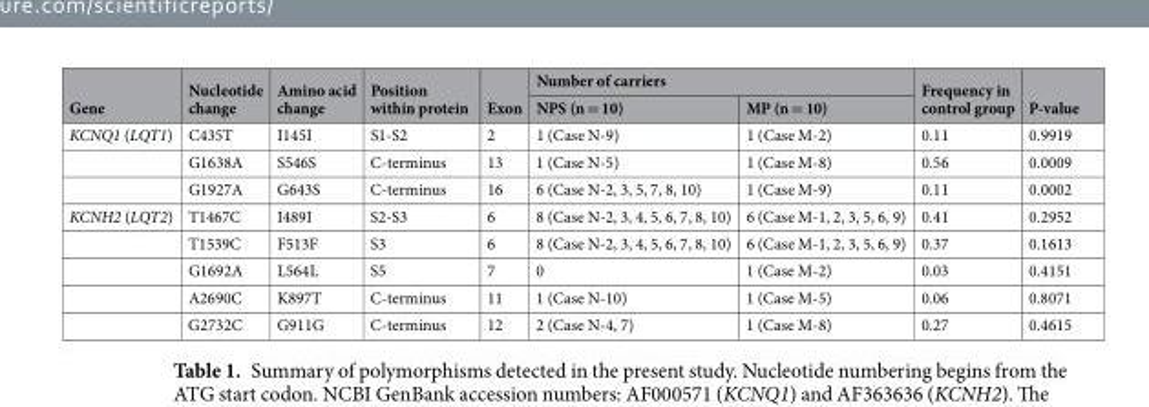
<table><thead><tr><td rowspan="2">Gene</td><td rowspan="2">Nucleotide change</td><td rowspan="2">Amino acid change</td><td rowspan="2">Position within protein</td><td rowspan="2">Exon</td><td colspan="2">Number of carriers</td><td rowspan="2">Frequency in control group</td><td rowspan="2">P-value</td></tr><tr><td>NPS (n = 10)</td><td>MP (n = 10)</td></tr></thead><tbody><tr><td rowspan="3">KCNQ1 (LQT1)</td><td>C435T</td><td>I145I</td><td>S1-S2</td><td>2</td><td>1 (Case N-9)</td><td>1 (Case M-2)</td><td>0.11</td><td>0.9919</td></tr><tr><td>G1638A</td><td>S546S</td><td>C-terminus</td><td>13</td><td>1 (Case N-5)</td><td>1 (Case M-8)</td><td>0.56</td><td>0.0009</td></tr><tr><td>G1927A</td><td>G643S</td><td>C-terminus</td><td>16</td><td>6 (Case N-2, 3, 5, 7, 8, 10)</td><td>1 (Case M-9)</td><td>0.11</td><td>0.0002</td></tr><tr><td rowspan="5">KCNH2 (LQT2)</td><td>T1467C</td><td>I489I</td><td>S2-S3</td><td>6</td><td>8 (Case N-2, 3, 4, 5, 6, 7, 8, 10)</td><td>6 (Case M-1, 2, 3, 5, 6, 9)</td><td>0.41</td><td>0.2952</td></tr><tr><td>T1539C</td><td>F513F</td><td>S3</td><td>6</td><td>8 (Case N-2, 3, 4, 5, 6, 7, 8, 10)</td><td>6 (Case M-1, 2, 3, 5, 6, 9)</td><td>0.37</td><td>0.1613</td></tr><tr><td>G1692A</td><td>L564L</td><td>S5</td><td>7</td><td>0</td><td>1 (Case M-2)</td><td>0.03</td><td>0.4151</td></tr><tr><td>A2690C</td><td>K897T</td><td>C-terminus</td><td>11</td><td>1 (Case N-10)</td><td>1 (Case M-5)</td><td>0.06</td><td>0.8071</td></tr><tr><td>G2732C</td><td>G911G</td><td>C-terminus</td><td>12</td><td>2 (Case N-4, 7)</td><td>1 (Case M-8)</td><td>0.27</td><td>0.4615</td></tr></tbody></table>